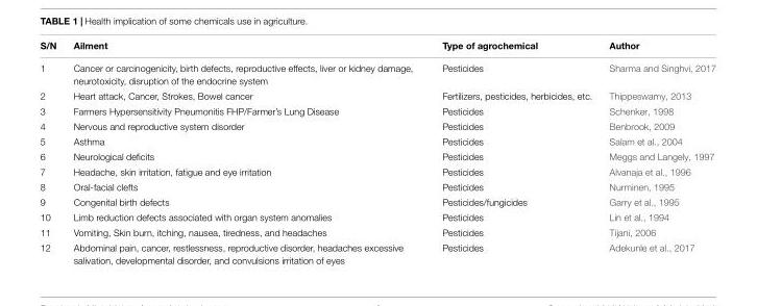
<table><thead><tr><td>S/N</td><td>Ailment</td><td>Type of agrochemical</td><td>Author</td></tr></thead><tbody><tr><td>1</td><td>Cancer or carcinogenicity, birth defects, reproductive effects, liver or kidney damage, neurotoxicity, disruption of the endocrine system</td><td>Pesticides</td><td>Sharma and Singhvi, 2017</td></tr><tr><td>2</td><td>Heart attack, Cancer, Strokes, Bowel cancer</td><td>Fertilizers, pesticides, herbicides, etc.</td><td>Thippeswamy, 2013</td></tr><tr><td>3</td><td>Farmers Hypersensitivity Pneumonitis FHP/Farmer’s Lung Disease</td><td>Pesticides</td><td>Schenker, 1998</td></tr><tr><td>4</td><td>Nervous and reproductive system disorder</td><td>Pesticides</td><td>Benbrook, 2009</td></tr><tr><td>5</td><td>Asthma</td><td>Pesticides</td><td>Salam et al., 2004</td></tr><tr><td>6</td><td>Neurological deficits</td><td>Pesticides</td><td>Meggs and Langely, 1997</td></tr><tr><td>7</td><td>Headache, skin irritation, fatigue and eye irritation</td><td>Pesticides</td><td>Alvanaja et al., 1996</td></tr><tr><td>8</td><td>Oral-facial clefts</td><td>Pesticides</td><td>Nurminen, 1995</td></tr><tr><td>9</td><td>Congenital birth defects</td><td>Pesticides/fungicides</td><td>Garry et al., 1995</td></tr><tr><td>10</td><td>Limb reduction defects associated with organ system anomalies</td><td>Pesticides</td><td>Lin et al., 1994</td></tr><tr><td>11</td><td>Vomiting, Skin burn, itching, nausea, tiredness, and headaches</td><td>Pesticides</td><td>Tijani, 2006</td></tr><tr><td>12</td><td>Abdominal pain, cancer, restlessness, reproductive disorder, headaches excessive salivation, developmental disorder, and convulsions irritation of eyes</td><td>Pesticides</td><td>Adekunle et al., 2017</td></tr></tbody></table>